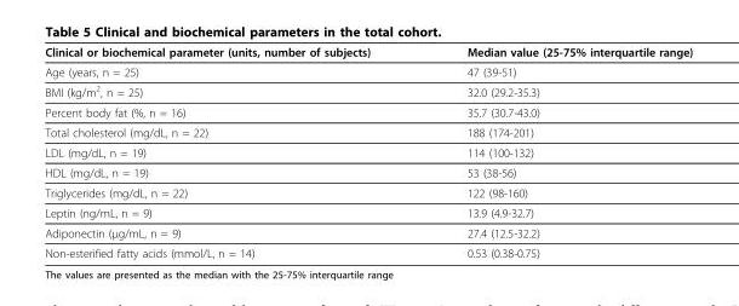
<table><thead><tr><td>Clinical or biochemical parameter (units, number of subjects)</td><td>Median value (25-75% interquartile range)</td></tr></thead><tbody><tr><td>Age (years, n = 25)</td><td>47 (39-51)</td></tr><tr><td>BMI (kg/m<sup>2</sup>, n = 25)</td><td>32.0 (29.2-35.3)</td></tr><tr><td>Percent body fat (%, n = 16)</td><td>35.7 (30.7-43.0)</td></tr><tr><td>Total cholesterol (mg/dL, n = 22)</td><td>188 (174-201)</td></tr><tr><td>LDL (mg/dL, n = 19)</td><td>114 (100-132)</td></tr><tr><td>HDL (mg/dL, n = 19)</td><td>53 (38-56)</td></tr><tr><td>Triglycerides (mg/dL, n = 22)</td><td>122 (98-160)</td></tr><tr><td>Leptin (ng/mL, n = 9)</td><td>13.9 (4.9-32.7)</td></tr><tr><td>Adiponectin (μg/mL, n = 9)</td><td>27.4 (12.5-32.2)</td></tr><tr><td>Non-esterified fatty acids (mmol/L, n = 14)</td><td>0.53 (0.38-0.75)</td></tr></tbody></table>